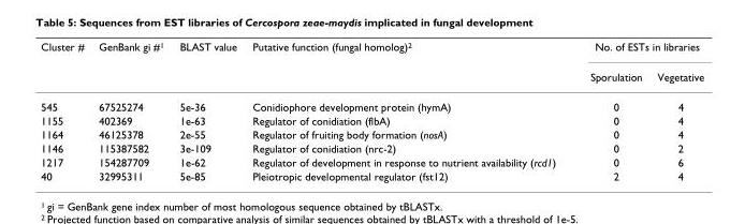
<table><thead><tr><td rowspan="2">Cluster #</td><td rowspan="2">GenBank gi #<sup>1</sup></td><td rowspan="2">BLAST value</td><td rowspan="2">Putative function (fungal homolog)<sup>2</sup></td><td colspan="2">No. of ESTs in libraries</td></tr><tr><td>Sporulation</td><td>Vegetative</td></tr></thead><tbody><tr><td>545</td><td>67525274</td><td>5e-36</td><td>Conidiophore development protein (hymA)</td><td>0</td><td>4</td></tr><tr><td>1155</td><td>402369</td><td>1e-63</td><td>Regulator of conidiation (flbA)</td><td>0</td><td>4</td></tr><tr><td>1164</td><td>46125378</td><td>2e-55</td><td>Regulator of fruiting body formation (nosA)</td><td>0</td><td>4</td></tr><tr><td>1146</td><td>115387582</td><td>3e-109</td><td>Regulator of conidiation (nrc-2)</td><td>0</td><td>2</td></tr><tr><td>1217</td><td>154287709</td><td>1e-62</td><td>Regulator of development in response to nutrient availability (rcd1)</td><td>0</td><td>6</td></tr><tr><td>40</td><td>32995311</td><td>5e-85</td><td>Pleiotropic developmental regulator (fst12)</td><td>2</td><td>4</td></tr></tbody></table>